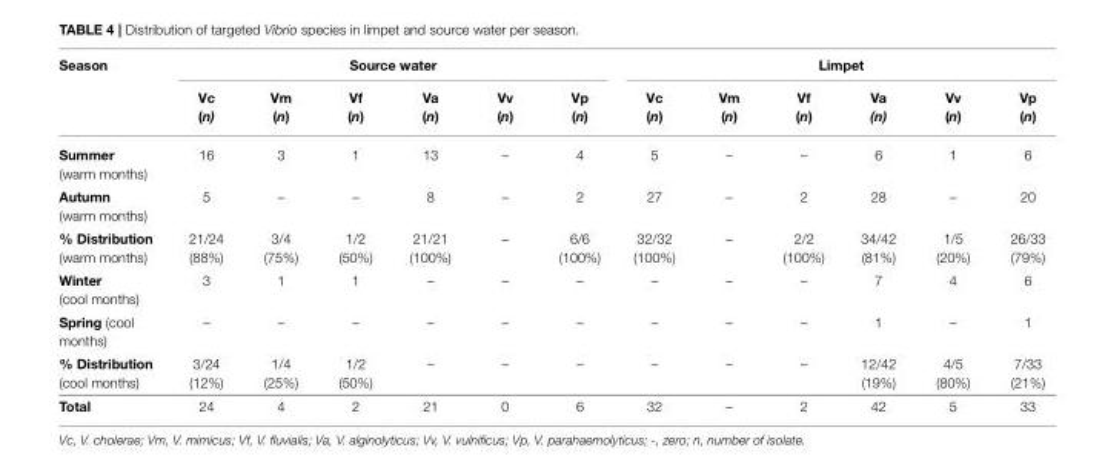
<table><thead><tr><td rowspan="2">Season</td><td colspan="6">Source water</td><td colspan="6">Limpet</td></tr><tr><td>Vc (n)</td><td>Vm (n)</td><td>Vf (n)</td><td>Va (n)</td><td>Vv (n)</td><td>Vp (n)</td><td>Vc (n)</td><td>Vm (n)</td><td>Vf (n)</td><td>Va (n)</td><td>Vv (n)</td><td>Vp (n)</td></tr></thead><tbody><tr><td>Summer (warm months)</td><td>16</td><td>3</td><td>1</td><td>13</td><td>–</td><td>4</td><td>5</td><td>–</td><td>–</td><td>6</td><td>1</td><td>6</td></tr><tr><td>Autumn (warm months)</td><td>5</td><td>–</td><td>–</td><td>8</td><td>–</td><td>2</td><td>27</td><td>–</td><td>2</td><td>28</td><td>–</td><td>20</td></tr><tr><td>% Distribution (warm months)</td><td>21/24 (88%)</td><td>3/4 (75%)</td><td>1/2 (50%)</td><td>21/21 (100%)</td><td>–</td><td>6/6 (100%)</td><td>32/32 (100%)</td><td>–</td><td>2/2 (100%)</td><td>34/42 (81%)</td><td>1/5 (20%)</td><td>26/33 (79%)</td></tr><tr><td>Winter (cool months)</td><td>3</td><td>1</td><td>1</td><td>–</td><td>–</td><td>–</td><td>–</td><td>–</td><td>–</td><td>7</td><td>4</td><td>6</td></tr><tr><td>Spring (cool months)</td><td>–</td><td>–</td><td>–</td><td>–</td><td>–</td><td>–</td><td>–</td><td>–</td><td>–</td><td>1</td><td>–</td><td>1</td></tr><tr><td>% Distribution (cool months)</td><td>3/24 (12%)</td><td>1/4 (25%)</td><td>1/2 (50%)</td><td>–</td><td>–</td><td>–</td><td>–</td><td>–</td><td>–</td><td>12/42 (19%)</td><td>4/5 (80%)</td><td>7/33 (21%)</td></tr><tr><td>Total</td><td>24</td><td>4</td><td>2</td><td>21</td><td>0</td><td>6</td><td>32</td><td>–</td><td>2</td><td>42</td><td>5</td><td>33</td></tr></tbody></table>